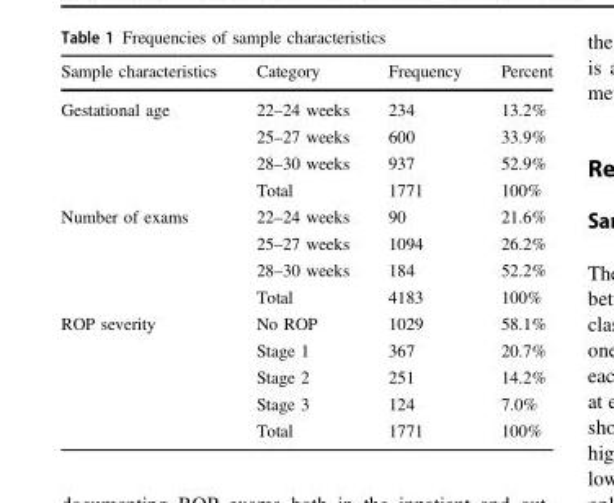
<table><thead><tr><td>Sample characteristics</td><td>Category</td><td>Frequency</td><td>Percent</td></tr></thead><tbody><tr><td rowspan="4">Gestational age</td><td>22–24 weeks</td><td>234</td><td>13.2%</td></tr><tr><td>25–27 weeks</td><td>600</td><td>33.9%</td></tr><tr><td>28–30 weeks</td><td>937</td><td>52.9%</td></tr><tr><td>Total</td><td>1771</td><td>100%</td></tr><tr><td rowspan="4">Number of exams</td><td>22–24 weeks</td><td>90</td><td>21.6%</td></tr><tr><td>25–27 weeks</td><td>1094</td><td>26.2%</td></tr><tr><td>28–30 weeks</td><td>184</td><td>52.2%</td></tr><tr><td>Total</td><td>4183</td><td>100%</td></tr><tr><td rowspan="5">ROP severity</td><td>No ROP</td><td>1029</td><td>58.1%</td></tr><tr><td>Stage 1</td><td>367</td><td>20.7%</td></tr><tr><td>Stage 2</td><td>251</td><td>14.2%</td></tr><tr><td>Stage 3</td><td>124</td><td>7.0%</td></tr><tr><td>Total</td><td>1771</td><td>100%</td></tr></tbody></table>